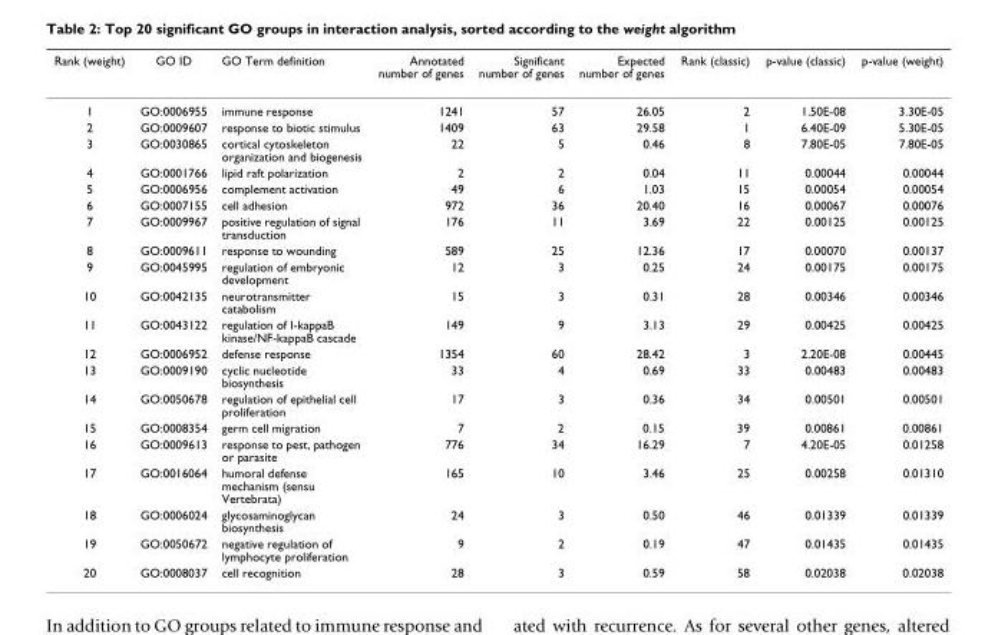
<table><thead><tr><td>Rank (weight)</td><td>GO ID</td><td>GO Term definition</td><td>Annotated number of genes</td><td>Significant number of genes</td><td>Expected number of genes</td><td>Rank (classic)</td><td>p-value (classic)</td><td>p-value (weight)</td></tr></thead><tbody><tr><td>1</td><td>GO:0006955</td><td>immune response</td><td>1241</td><td>57</td><td>26.05</td><td>2</td><td>1.50E-08</td><td>3.30E-05</td></tr><tr><td>2</td><td>GO:0009607</td><td>response to biotic stimulus</td><td>1409</td><td>63</td><td>29.58</td><td>1</td><td>6.40E-09</td><td>5.30E-05</td></tr><tr><td>3</td><td>GO:0030865</td><td>cortical cytoskeleton organization and biogenesis</td><td>22</td><td>5</td><td>0.46</td><td>8</td><td>7.80E-05</td><td>7.80E-05</td></tr><tr><td>4</td><td>GO:0001766</td><td>lipid raft polarization</td><td>2</td><td>2</td><td>0.04</td><td>11</td><td>0.00044</td><td>0.00044</td></tr><tr><td>5</td><td>GO:0006956</td><td>complement activation</td><td>49</td><td>6</td><td>1.03</td><td>15</td><td>0.00054</td><td>0.00054</td></tr><tr><td>6</td><td>GO:0007155</td><td>cell adhesion</td><td>972</td><td>36</td><td>20.40</td><td>16</td><td>0.00067</td><td>0.00076</td></tr><tr><td>7</td><td>GO:0009967</td><td>positive regulation of signal transduction</td><td>176</td><td>11</td><td>3.69</td><td>22</td><td>0.00125</td><td>0.00125</td></tr><tr><td>8</td><td>GO:0009611</td><td>response to wounding</td><td>589</td><td>25</td><td>12.36</td><td>17</td><td>0.00070</td><td>0.00137</td></tr><tr><td>9</td><td>GO:0045995</td><td>regulation of embryonic development</td><td>12</td><td>3</td><td>0.25</td><td>24</td><td>0.00175</td><td>0.00175</td></tr><tr><td>10</td><td>GO:0042135</td><td>neurotransmitter catabolism</td><td>15</td><td>3</td><td>0.31</td><td>28</td><td>0.00346</td><td>0.00346</td></tr><tr><td>11</td><td>GO:0043122</td><td>regulation of I-kappaB kinase/NF-kappaB cascade</td><td>149</td><td>9</td><td>3.13</td><td>29</td><td>0.00425</td><td>0.00425</td></tr><tr><td>12</td><td>GO:0006952</td><td>defense response</td><td>1354</td><td>60</td><td>28.42</td><td>3</td><td>2.20E-08</td><td>0.00445</td></tr><tr><td>13</td><td>GO:0009190</td><td>cyclic nucleotide biosynthesis</td><td>33</td><td>4</td><td>0.69</td><td>33</td><td>0.00483</td><td>0.00483</td></tr><tr><td>14</td><td>GO:0050678</td><td>regulation of epithelial cell proliferation</td><td>17</td><td>3</td><td>0.36</td><td>34</td><td>0.00501</td><td>0.00501</td></tr><tr><td>15</td><td>GO:0008354</td><td>germ cell migration</td><td>7</td><td>2</td><td>0.15</td><td>39</td><td>0.00861</td><td>0.00861</td></tr><tr><td>16</td><td>GO:0009613</td><td>response to pest, pathogen or parasite</td><td>776</td><td>34</td><td>16.29</td><td>7</td><td>4.20E-05</td><td>0.01258</td></tr><tr><td>17</td><td>GO:0016064</td><td>humoral defense mechanism (sensu Vertebrata)</td><td>165</td><td>10</td><td>3.46</td><td>25</td><td>0.00258</td><td>0.01310</td></tr><tr><td>18</td><td>GO:0006024</td><td>glycosaminoglycan biosynthesis</td><td>24</td><td>3</td><td>0.50</td><td>46</td><td>0.01339</td><td>0.01339</td></tr><tr><td>19</td><td>GO:0050672</td><td>negative regulation of lymphocyte proliferation</td><td>9</td><td>2</td><td>0.19</td><td>47</td><td>0.01435</td><td>0.01435</td></tr><tr><td>20</td><td>GO:0008037</td><td>cell recognition</td><td>28</td><td>3</td><td>0.59</td><td>58</td><td>0.02038</td><td>0.02038</td></tr></tbody></table>